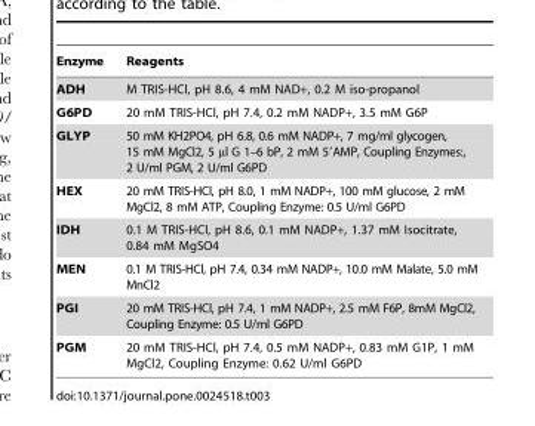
<table><thead><tr><td>Enzyme</td><td>Reagents</td></tr></thead><tbody><tr><td>ADH</td><td>M TRIS-HCl, pH 8.6, 4 mM NAD+, 0.2 M iso-propanol</td></tr><tr><td>G6PD</td><td>20 mM TRIS-HCl, pH 7.4, 0.2 mM NADP+, 3.5 mM G6P</td></tr><tr><td>GLYP</td><td>50 mM KH2PO4, pH 6.8, 0.6 mM NADP+, 7 mg/ml glycogen, 15 mM MgCl2, 5 µl G 1–6 bP, 2 mM 5′AMP, Coupling Enzymes:, 2 U/ml PGM, 2 U/ml G6PD</td></tr><tr><td>HEX</td><td>20 mM TRIS-HCl, pH 8.0, 1 mM NADP+, 100 mM glucose, 2 mM MgCl2, 8 mM ATP, Coupling Enzyme: 0.5 U/ml G6PD</td></tr><tr><td>IDH</td><td>0.1 M TRIS-HCl, pH 8.6, 0.1 mM NADP+, 1.37 mM Isocitrate, 0.84 mM MgSO4</td></tr><tr><td>MEN</td><td>0.1 M TRIS-HCl, pH 7.4, 0.34 mM NADP+, 10.0 mM Malate, 5.0 mM MnCl2</td></tr><tr><td>PGI</td><td>20 mM TRIS-HCl, pH 7.4, 1 mM NADP+, 2.5 mM F6P, 8mM MgCl2, Coupling Enzyme: 0.5 U/ml G6PD</td></tr><tr><td>PGM</td><td>20 mM TRIS-HCl, pH 7.4, 0.5 mM NADP+, 0.83 mM G1P, 1 mM MgCl2, Coupling Enzyme: 0.62 U/ml G6PD</td></tr></tbody></table>